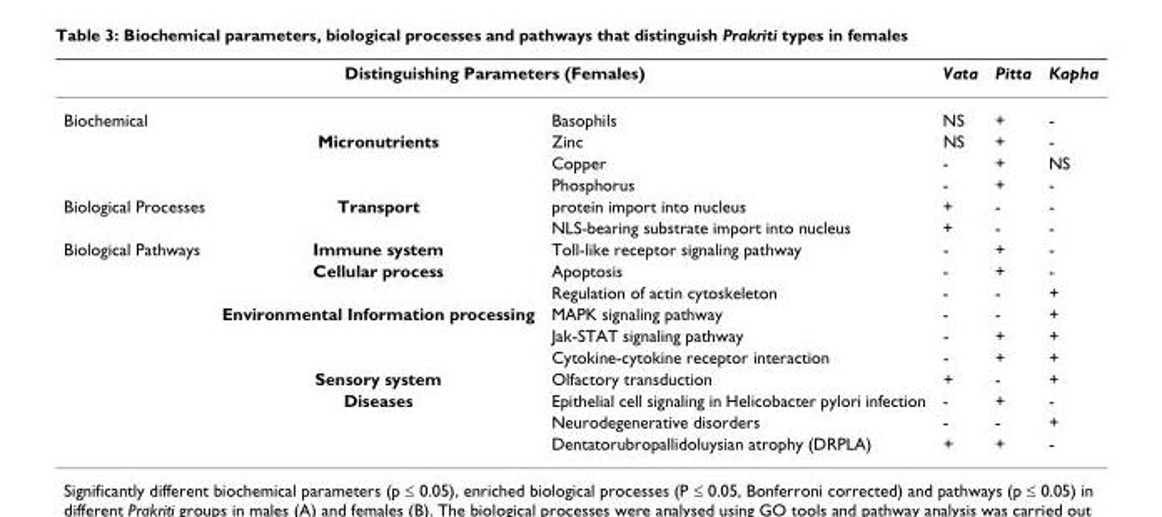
<table><thead><tr><td colspan="3">Distinguishing Parameters (Females)</td><td rowspan="2">Vata NS</td><td rowspan="2">Pitta +</td><td rowspan="2">Kapha -</td></tr><tr><td>Biochemical</td><td></td><td>Basophils</td></tr></thead><tbody><tr><td></td><td>Micronutrients</td><td>Zinc</td><td>NS</td><td>+</td><td>-</td></tr><tr><td></td><td></td><td>Copper</td><td>-</td><td>+</td><td>NS</td></tr><tr><td></td><td></td><td>Phosphorus</td><td>-</td><td>+</td><td>-</td></tr><tr><td rowspan="2">Biological Processes</td><td>Transport</td><td>protein import into nucleus</td><td>+</td><td>-</td><td>-</td></tr><tr><td></td><td>NLS-bearing substrate import into nucleus</td><td>+</td><td>-</td><td>-</td></tr><tr><td rowspan="10">Biological Pathways</td><td>Immune system</td><td>Toll-like receptor signaling pathway</td><td>-</td><td>+</td><td>-</td></tr><tr><td>Cellular process</td><td>Apoptosis</td><td>-</td><td>+</td><td>-</td></tr><tr><td></td><td>Regulation of actin cytoskeleton</td><td>-</td><td>-</td><td>+</td></tr><tr><td>Environmental Information processing</td><td>MAPK signaling pathway</td><td>-</td><td>-</td><td>+</td></tr><tr><td></td><td>Jak-STAT signaling pathway</td><td>-</td><td>+</td><td>+</td></tr><tr><td></td><td>Cytokine-cytokine receptor interaction</td><td>-</td><td>+</td><td>+</td></tr><tr><td>Sensory system</td><td>Olfactory transduction</td><td>+</td><td>-</td><td>+</td></tr><tr><td>Diseases</td><td>Epithelial cell signaling in Helicobacter pylori infection</td><td>-</td><td>+</td><td>-</td></tr><tr><td></td><td>Neurodegenerative disorders</td><td>-</td><td>-</td><td>+</td></tr><tr><td></td><td>Dentatorubropallidoluysian atrophy (DRPLA)</td><td>+</td><td>+</td><td>-</td></tr></tbody></table>